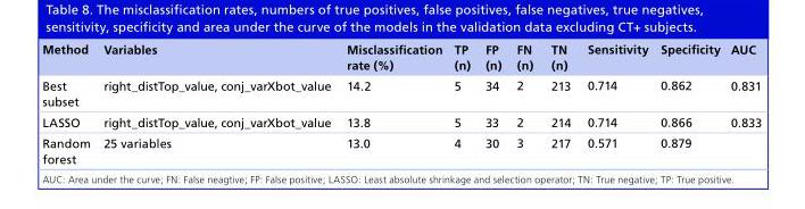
<table><thead><tr><td>Method</td><td>Variables</td><td>Misclassification rate (%)</td><td>TP (n)</td><td>FP (n)</td><td>FN (n)</td><td>TN (n)</td><td>Sensitivity</td><td>Specificity</td><td>AUC</td></tr></thead><tbody><tr><td>Best subset</td><td>right_distTop_value, conj_varXbot_value</td><td>14.2</td><td>5</td><td>34</td><td>2</td><td>213</td><td>0.714</td><td>0.862</td><td>0.831</td></tr><tr><td>LASSO</td><td>right_distTop_value, conj_varXbot_value</td><td>13.8</td><td>5</td><td>33</td><td>2</td><td>214</td><td>0.714</td><td>0.866</td><td>0.833</td></tr><tr><td>Random forest</td><td>25 variables</td><td>13.0</td><td>4</td><td>30</td><td>3</td><td>217</td><td>0.571</td><td>0.879</td><td></td></tr></tbody></table>